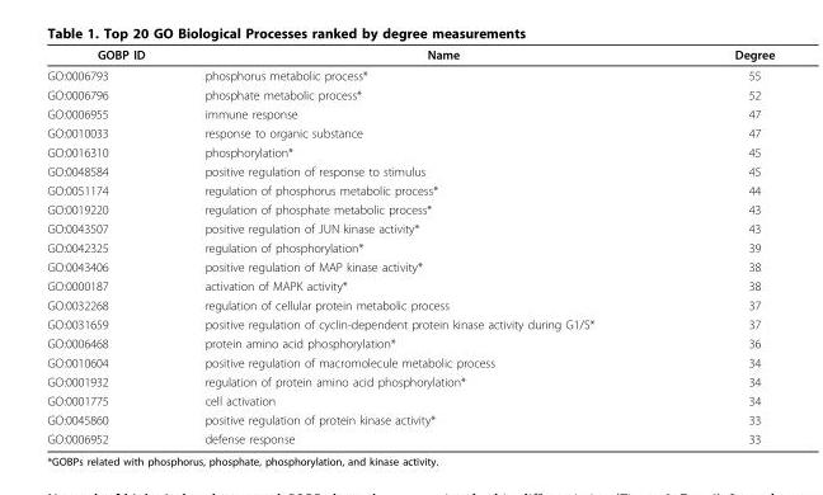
<table><thead><tr><td>GOBP ID</td><td>Name</td><td>Degree</td></tr></thead><tbody><tr><td>GO:0006793</td><td>phosphorus metabolic process*</td><td>55</td></tr><tr><td>GO:0006796</td><td>phosphate metabolic process*</td><td>52</td></tr><tr><td>GO:0006955</td><td>immune response</td><td>47</td></tr><tr><td>GO:0010033</td><td>response to organic substance</td><td>47</td></tr><tr><td>GO:0016310</td><td>phosphorylation*</td><td>45</td></tr><tr><td>GO:0048584</td><td>positive regulation of response to stimulus</td><td>45</td></tr><tr><td>GO:0051174</td><td>regulation of phosphorus metabolic process*</td><td>44</td></tr><tr><td>GO:0019220</td><td>regulation of phosphate metabolic process*</td><td>43</td></tr><tr><td>GO:0043507</td><td>positive regulation of JUN kinase activity*</td><td>43</td></tr><tr><td>GO:0042325</td><td>regulation of phosphorylation*</td><td>39</td></tr><tr><td>GO:0043406</td><td>positive regulation of MAP kinase activity*</td><td>38</td></tr><tr><td>GO:0000187</td><td>activation of MAPK activity*</td><td>38</td></tr><tr><td>GO:0032268</td><td>regulation of cellular protein metabolic process</td><td>37</td></tr><tr><td>GO:0031659</td><td>positive regulation of cyclin-dependent protein kinase activity during G1/S*</td><td>37</td></tr><tr><td>GO:0006468</td><td>protein amino acid phosphorylation*</td><td>36</td></tr><tr><td>GO:0010604</td><td>positive regulation of macromolecule metabolic process</td><td>34</td></tr><tr><td>GO:0001932</td><td>regulation of protein amino acid phosphorylation*</td><td>34</td></tr><tr><td>GO:0001775</td><td>cell activation</td><td>34</td></tr><tr><td>GO:0045860</td><td>positive regulation of protein kinase activity*</td><td>33</td></tr><tr><td>GO:0006952</td><td>defense response</td><td>33</td></tr></tbody></table>